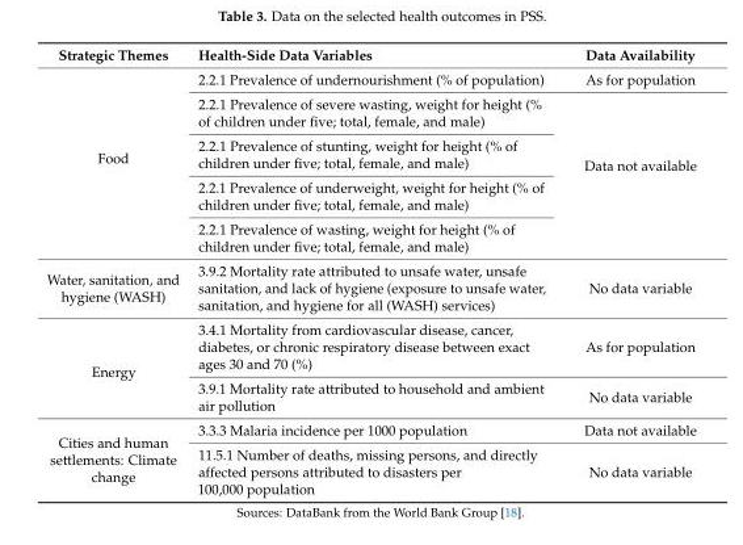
<table><thead><tr><td>Strategic Themes</td><td>Health-Side Data Variables</td><td>Data Availability</td></tr></thead><tbody><tr><td rowspan="5">Food</td><td>2.2.1 Prevalence of undernourishment (% of population)</td><td>As for population</td></tr><tr><td>2.2.1 Prevalence of severe wasting, weight for height (% of children under five; total, female, and male)</td><td rowspan="4">Data not available</td></tr><tr><td>2.2.1 Prevalence of stunting, weight for height (% of children under five; total, female, and male)</td></tr><tr><td>2.2.1 Prevalence of underweight, weight for height (% of children under five; total, female, and male)</td></tr><tr><td>2.2.1 Prevalence of wasting, weight for height (% of children under five; total, female, and male)</td></tr><tr><td>Water, sanitation, and hygiene (WASH)</td><td>3.9.2 Mortality rate attributed to unsafe water, unsafe sanitation, and lack of hygiene (exposure to unsafe water, sanitation, and hygiene for all (WASH) services)</td><td>No data variable</td></tr><tr><td rowspan="2">Energy</td><td>3.4.1 Mortality from cardiovascular disease, cancer, diabetes, or chronic respiratory disease between exact ages 30 and 70 (%)</td><td>As for population</td></tr><tr><td>3.9.1 Mortality rate attributed to household and ambient air pollution</td><td>No data variable</td></tr><tr><td rowspan="2">Cities and human settlements: Climate change</td><td>3.3.3 Malaria incidence per 1000 population</td><td>Data not available</td></tr><tr><td>11.5.1 Number of deaths, missing persons, and directly affected persons attributed to disasters per 100,000 population</td><td>No data variable</td></tr></tbody></table>